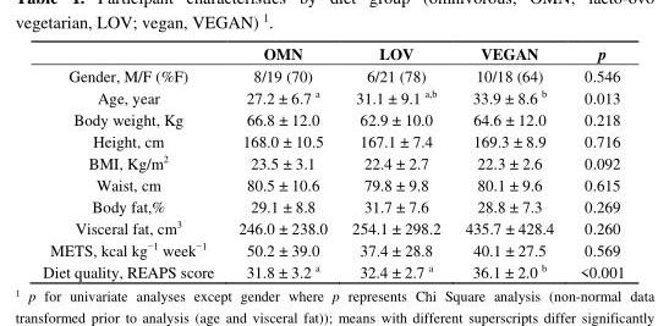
<table><thead><tr><td></td><td>OMN</td><td>LOV</td><td>VEGAN</td><td>p</td></tr></thead><tbody><tr><td>Gender, M/F (%F)</td><td>8/19 (70)</td><td>6/21 (78)</td><td>10/18 (64)</td><td>0.546</td></tr><tr><td>Age, year</td><td>27.2 ± 6.7 <sup>a</sup></td><td>31.1 ± 9.1 <sup>a,b</sup></td><td>33.9 ± 8.6 <sup>b</sup></td><td>0.013</td></tr><tr><td>Body weight, Kg</td><td>66.8 ± 12.0</td><td>62.9 ± 10.0</td><td>64.6 ± 12.0</td><td>0.218</td></tr><tr><td>Height, cm</td><td>168.0 ± 10.5</td><td>167.1 ± 7.4</td><td>169.3 ± 8.9</td><td>0.716</td></tr><tr><td>BMI, Kg/m<sup>2</sup></td><td>23.5 ± 3.1</td><td>22.4 ± 2.7</td><td>22.3 ± 2.6</td><td>0.092</td></tr><tr><td>Waist, cm</td><td>80.5 ± 10.6</td><td>79.8 ± 9.8</td><td>80.1 ± 9.6</td><td>0.615</td></tr><tr><td>Body fat,%</td><td>29.1 ± 8.8</td><td>31.7 ± 7.6</td><td>28.8 ± 7.3</td><td>0.269</td></tr><tr><td>Visceral fat, cm<sup>3</sup></td><td>246.0 ± 238.0</td><td>254.1 ± 298.2</td><td>435.7 ± 428.4</td><td>0.260</td></tr><tr><td>METS, kcal kg<sup>−1</sup> week<sup>−1</sup></td><td>50.2 ± 39.0</td><td>37.4 ± 28.8</td><td>40.1 ± 27.5</td><td>0.569</td></tr><tr><td>Diet quality, REAPS score</td><td>31.8 ± 3.2 <sup>a</sup></td><td>32.4 ± 2.7 <sup>a</sup></td><td>36.1 ± 2.0 <sup>b</sup></td><td>&lt;0.001</td></tr></tbody></table>